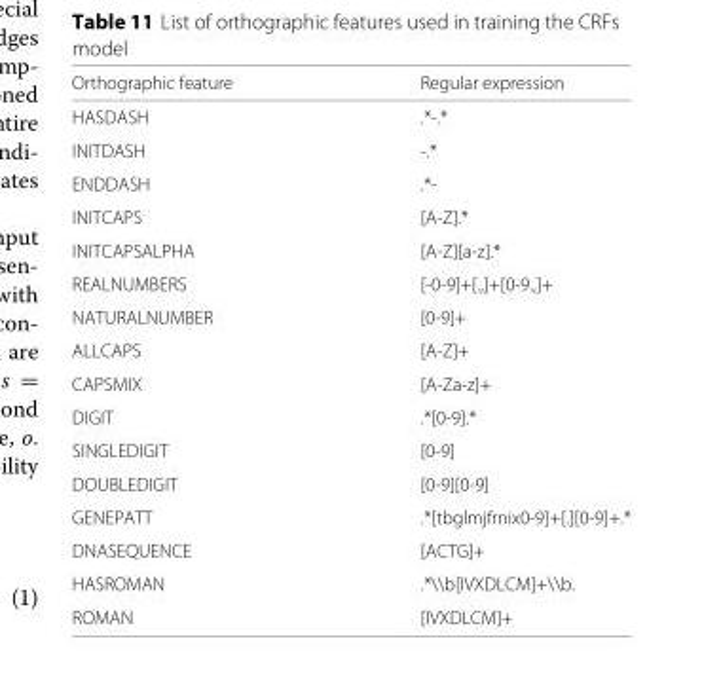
<table><thead><tr><td>Orthographic feature</td><td>Regular expression</td></tr></thead><tbody><tr><td>HASDASH</td><td>.*-.*</td></tr><tr><td>INITDASH</td><td>-.*</td></tr><tr><td>ENDDASH</td><td>.*-</td></tr><tr><td>INITCAPS</td><td>[A-Z].*</td></tr><tr><td>INITCAPSALPHA</td><td>[A-Z][a-z].*</td></tr><tr><td>REALNUMBERS</td><td>[-0-9]+[.,]+[0-9.,]+</td></tr><tr><td>NATURALNUMBER</td><td>[0-9]+</td></tr><tr><td>ALLCAPS</td><td>[A-Z]+</td></tr><tr><td>CAPSMIX</td><td>[A-Za-z]+</td></tr><tr><td>DIGIT</td><td>.*[0-9].*</td></tr><tr><td>SINGLEDIGIT</td><td>[0-9]</td></tr><tr><td>DOUBLEDIGIT</td><td>[0-9][0-9]</td></tr><tr><td>GENEPATT</td><td>.*[tbglmjfrnix0-9]+[.][0-9]+.*</td></tr><tr><td>DNASEQUENCE</td><td>[ACTG]+</td></tr><tr><td>HASROMAN</td><td>.*\\b[IVXDLCM]+\\b.</td></tr><tr><td>ROMAN</td><td>[IVXDLCM]+</td></tr></tbody></table>